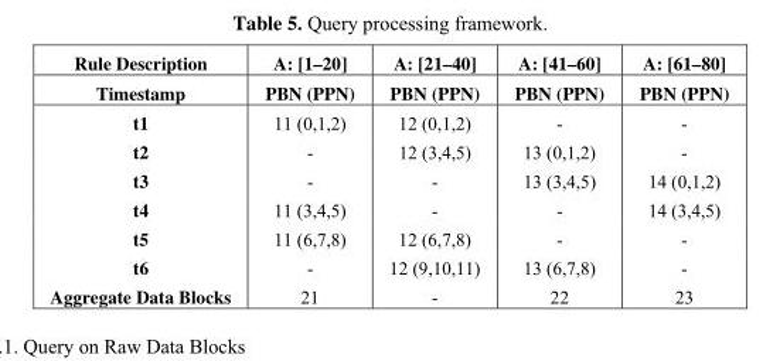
<table><thead><tr><td rowspan="2">Rule Description Timestamp</td><td rowspan="2">A: [1–20] PBN (PPN)</td><td rowspan="2">A: [21–40] PBN (PPN)</td><td rowspan="2">A: [41–60] PBN (PPN)</td><td rowspan="2">A: [61–80] PBN (PPN)</td></tr><tr></tr></thead><tbody><tr><td>t1</td><td>11 (0,1,2)</td><td>12 (0,1,2)</td><td>-</td><td>-</td></tr><tr><td>t2</td><td>-</td><td>12 (3,4,5)</td><td>13 (0,1,2)</td><td>-</td></tr><tr><td>t3</td><td>-</td><td>-</td><td>13 (3,4,5)</td><td>14 (0,1,2)</td></tr><tr><td>t4</td><td>11 (3,4,5)</td><td>-</td><td>-</td><td>14 (3,4,5)</td></tr><tr><td>t5</td><td>11 (6,7,8)</td><td>12 (6,7,8)</td><td>-</td><td>-</td></tr><tr><td>t6</td><td>-</td><td>12 (9,10,11)</td><td>13 (6,7,8)</td><td>-</td></tr><tr><td>Aggregate Data Blocks</td><td>21</td><td>-</td><td>22</td><td>23</td></tr></tbody></table>